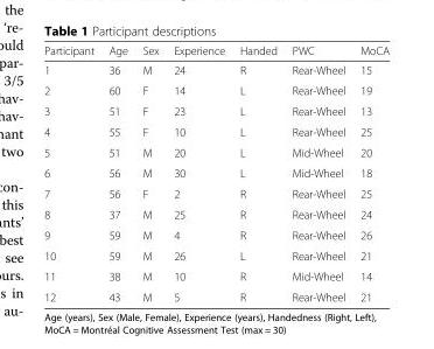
<table><thead><tr><td>Participant</td><td>Age</td><td>Sex</td><td>Experience</td><td>Handed</td><td>PWC</td><td>MoCA</td></tr></thead><tbody><tr><td>1</td><td>36</td><td>M</td><td>24</td><td>R</td><td>Rear-Wheel</td><td>15</td></tr><tr><td>2</td><td>60</td><td>F</td><td>14</td><td>L</td><td>Rear-Wheel</td><td>19</td></tr><tr><td>3</td><td>51</td><td>F</td><td>23</td><td>L</td><td>Rear-Wheel</td><td>13</td></tr><tr><td>4</td><td>55</td><td>F</td><td>10</td><td>L</td><td>Rear-Wheel</td><td>25</td></tr><tr><td>5</td><td>51</td><td>M</td><td>20</td><td>L</td><td>Mid-Wheel</td><td>20</td></tr><tr><td>6</td><td>56</td><td>M</td><td>30</td><td>L</td><td>Mid-Wheel</td><td>18</td></tr><tr><td>7</td><td>56</td><td>F</td><td>2</td><td>R</td><td>Rear-Wheel</td><td>25</td></tr><tr><td>8</td><td>37</td><td>M</td><td>25</td><td>R</td><td>Rear-Wheel</td><td>24</td></tr><tr><td>9</td><td>59</td><td>M</td><td>4</td><td>R</td><td>Rear-Wheel</td><td>26</td></tr><tr><td>10</td><td>59</td><td>M</td><td>26</td><td>L</td><td>Rear-Wheel</td><td>21</td></tr><tr><td>11</td><td>38</td><td>M</td><td>10</td><td>R</td><td>Mid-Wheel</td><td>14</td></tr><tr><td>12</td><td>43</td><td>M</td><td>5</td><td>R</td><td>Rear-Wheel</td><td>21</td></tr></tbody></table>